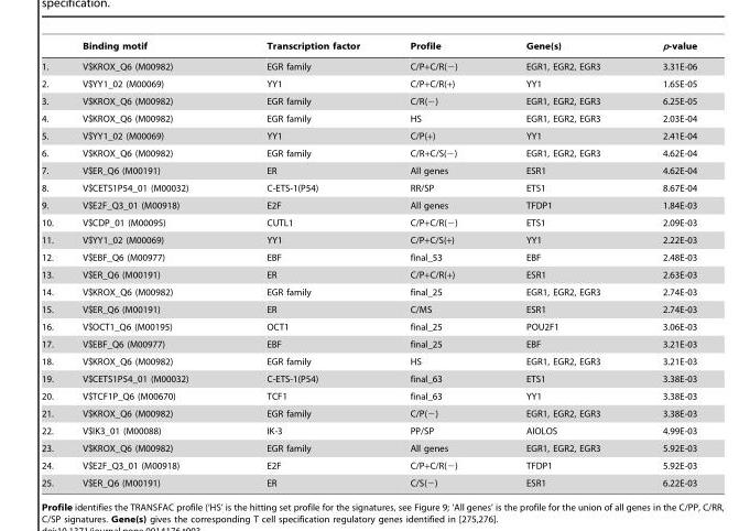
<table><thead><tr><td></td><td>Binding motif</td><td>Transcription factor</td><td>Profile</td><td>Gene(s)</td><td>p-value</td></tr></thead><tbody><tr><td>1.</td><td>V$KROX_Q6 (M00982)</td><td>EGR family</td><td>C/P+C/R(−)</td><td>EGR1, EGR2, EGR3</td><td>3.31E-06</td></tr><tr><td>2.</td><td>V$YY1_02 (M00069)</td><td>YY1</td><td>C/P+C/R(+)</td><td>YY1</td><td>1.65E-05</td></tr><tr><td>3.</td><td>V$KROX_Q6 (M00982)</td><td>EGR family</td><td>C/R(−)</td><td>EGR1, EGR2, EGR3</td><td>6.25E-05</td></tr><tr><td>4.</td><td>V$KROX_Q6 (M00982)</td><td>EGR family</td><td>HS</td><td>EGR1, EGR2, EGR3</td><td>2.03E-04</td></tr><tr><td>5.</td><td>V$YY1_02 (M00069)</td><td>YY1</td><td>C/P(+)</td><td>YY1</td><td>2.41E-04</td></tr><tr><td>6.</td><td>V$KROX_Q6 (M00982)</td><td>EGR family</td><td>C/R+C/S(−)</td><td>EGR1, EGR2, EGR3</td><td>4.62E-04</td></tr><tr><td>7.</td><td>V$ER_Q6 (M00191)</td><td>ER</td><td>All genes</td><td>ESR1</td><td>4.62E-04</td></tr><tr><td>8.</td><td>V$CETS1P54_01 (M00032)</td><td>C-ETS-1(P54)</td><td>RR/SP</td><td>ETS1</td><td>8.67E-04</td></tr><tr><td>9.</td><td>V$E2F_Q3_01 (M00918)</td><td>E2F</td><td>All genes</td><td>TFDP1</td><td>1.84E-03</td></tr><tr><td>10.</td><td>V$CDP_01 (M00095)</td><td>CUTL1</td><td>C/P+C/R(−)</td><td>ETS1</td><td>2.09E-03</td></tr><tr><td>11.</td><td>V$YY1_02 (M00069)</td><td>YY1</td><td>C/P+C/S(+)</td><td>YY1</td><td>2.22E-03</td></tr><tr><td>12.</td><td>V$EBF_Q6 (M00977)</td><td>EBF</td><td>final_53</td><td>EBF</td><td>2.48E-03</td></tr><tr><td>13.</td><td>V$ER_Q6 (M00191)</td><td>ER</td><td>C/P+C/R(+)</td><td>ESR1</td><td>2.63E-03</td></tr><tr><td>14.</td><td>V$KROX_Q6 (M00982)</td><td>EGR family</td><td>final_25</td><td>EGR1, EGR2, EGR3</td><td>2.74E-03</td></tr><tr><td>15.</td><td>V$ER_Q6 (M00191)</td><td>ER</td><td>C/MS</td><td>ESR1</td><td>2.74E-03</td></tr><tr><td>16.</td><td>V$OCT1_Q6 (M00195)</td><td>OCT1</td><td>final_25</td><td>POU2F1</td><td>3.06E-03</td></tr><tr><td>17.</td><td>V$EBF_Q6 (M00977)</td><td>EBF</td><td>final_25</td><td>EBF</td><td>3.21E-03</td></tr><tr><td>18.</td><td>V$KROX_Q6 (M00982)</td><td>EGR family</td><td>HS</td><td>EGR1, EGR2, EGR3</td><td>3.21E-03</td></tr><tr><td>19.</td><td>V$CETS1P54_01 (M00032)</td><td>C-ETS-1(P54)</td><td>final_63</td><td>ETS1</td><td>3.38E-03</td></tr><tr><td>20.</td><td>V$TCF1P_Q6 (M00670)</td><td>TCF1</td><td>final_63</td><td>YY1</td><td>3.38E-03</td></tr><tr><td>21.</td><td>V$KROX_Q6 (M00982)</td><td>EGR family</td><td>C/P(−)</td><td>EGR1, EGR2, EGR3</td><td>3.38E-03</td></tr><tr><td>22.</td><td>V$IK3_01 (M00088)</td><td>IK-3</td><td>PP/SP</td><td>AIOLOS</td><td>4.99E-03</td></tr><tr><td>23.</td><td>V$KROX_Q6 (M00982)</td><td>EGR family</td><td>All genes</td><td>EGR1, EGR2, EGR3</td><td>5.92E-03</td></tr><tr><td>24.</td><td>V$E2F_Q3_01 (M00918)</td><td>E2F</td><td>C/P+C/R(−)</td><td>TFDP1</td><td>5.92E-03</td></tr><tr><td>25.</td><td>V$ER_Q6 (M00191)</td><td>ER</td><td>C/S(−)</td><td>ESR1</td><td>6.22E-03</td></tr></tbody></table>